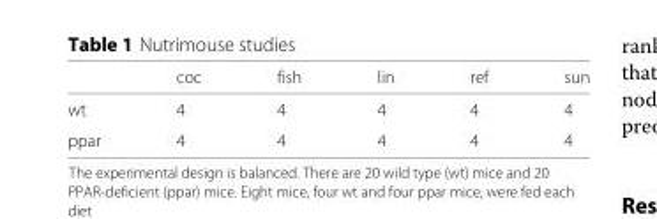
<table><thead><tr><td></td><td>coc</td><td>fish</td><td>lin</td><td>ref</td><td>sun</td></tr></thead><tbody><tr><td>wt</td><td>4</td><td>4</td><td>4</td><td>4</td><td>4</td></tr><tr><td>ppar</td><td>4</td><td>4</td><td>4</td><td>4</td><td>4</td></tr></tbody></table>